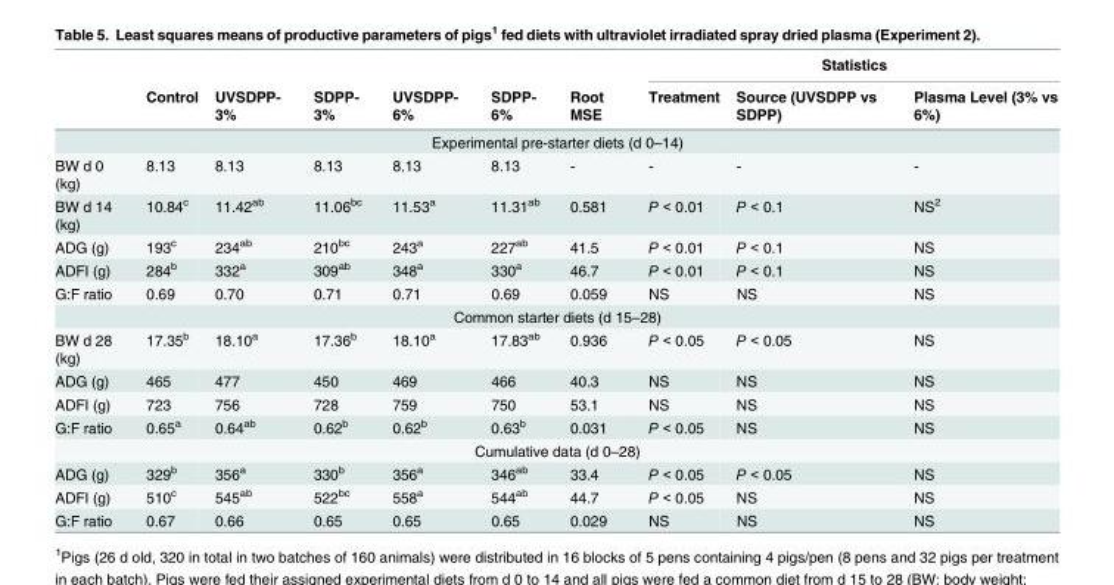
<table><thead><tr><td rowspan="2"></td><td rowspan="2">Control</td><td rowspan="2">UVSDPP- 3%</td><td rowspan="2">SDPP- 3%</td><td rowspan="2">UVSDPP- 6%</td><td rowspan="2">SDPP- 6%</td><td rowspan="2">Root MSE</td><td colspan="3">Statistics</td></tr><tr><td>Treatment</td><td>Source (UVSDPP vs SDPP)</td><td>Plasma Level (3% vs 6%)</td></tr></thead><tbody><tr><td colspan="10">Experimental pre-starter diets (d 0–14)</td></tr><tr><td>BW d 0 (kg)</td><td>8.13</td><td>8.13</td><td>8.13</td><td>8.13</td><td>8.13</td><td>-</td><td>-</td><td>-</td><td>-</td></tr><tr><td>BW d 14 (kg)</td><td>10.84<sup>c</sup></td><td>11.42<sup>ab</sup></td><td>11.06<sup>bc</sup></td><td>11.53<sup>a</sup></td><td>11.31<sup>ab</sup></td><td>0.581</td><td>P &lt; 0.01</td><td>P &lt; 0.1</td><td>NS<sup>2</sup></td></tr><tr><td>ADG (g)</td><td>193<sup>c</sup></td><td>234<sup>ab</sup></td><td>210<sup>bc</sup></td><td>243<sup>a</sup></td><td>227<sup>ab</sup></td><td>41.5</td><td>P &lt; 0.01</td><td>P &lt; 0.1</td><td>NS</td></tr><tr><td>ADFI (g)</td><td>284<sup>b</sup></td><td>332<sup>a</sup></td><td>309<sup>ab</sup></td><td>348<sup>a</sup></td><td>330<sup>a</sup></td><td>46.7</td><td>P &lt; 0.01</td><td>P &lt; 0.1</td><td>NS</td></tr><tr><td>G:F ratio</td><td>0.69</td><td>0.70</td><td>0.71</td><td>0.71</td><td>0.69</td><td>0.059</td><td>NS</td><td>NS</td><td>NS</td></tr><tr><td colspan="10">Common starter diets (d 15–28)</td></tr><tr><td>BW d 28 (kg)</td><td>17.35<sup>b</sup></td><td>18.10<sup>a</sup></td><td>17.36<sup>b</sup></td><td>18.10<sup>a</sup></td><td>17.83<sup>ab</sup></td><td>0.936</td><td>P &lt; 0.05</td><td>P &lt; 0.05</td><td>NS</td></tr><tr><td>ADG (g)</td><td>465</td><td>477</td><td>450</td><td>469</td><td>466</td><td>40.3</td><td>NS</td><td>NS</td><td>NS</td></tr><tr><td>ADFI (g)</td><td>723</td><td>756</td><td>728</td><td>759</td><td>750</td><td>53.1</td><td>NS</td><td>NS</td><td>NS</td></tr><tr><td>G:F ratio</td><td>0.65<sup>a</sup></td><td>0.64<sup>ab</sup></td><td>0.62<sup>b</sup></td><td>0.62<sup>b</sup></td><td>0.63<sup>b</sup></td><td>0.031</td><td>P &lt; 0.05</td><td>NS</td><td>NS</td></tr><tr><td colspan="10">Cumulative data (d 0–28)</td></tr><tr><td>ADG (g)</td><td>329<sup>b</sup></td><td>356<sup>a</sup></td><td>330<sup>b</sup></td><td>356<sup>a</sup></td><td>346<sup>ab</sup></td><td>33.4</td><td>P &lt; 0.05</td><td>P &lt; 0.05</td><td>NS</td></tr><tr><td>ADFI (g)</td><td>510<sup>c</sup></td><td>545<sup>ab</sup></td><td>522<sup>bc</sup></td><td>558<sup>a</sup></td><td>544<sup>ab</sup></td><td>44.7</td><td>P &lt; 0.05</td><td>NS</td><td>NS</td></tr><tr><td>G:F ratio</td><td>0.67</td><td>0.66</td><td>0.65</td><td>0.65</td><td>0.65</td><td>0.029</td><td>NS</td><td>NS</td><td>NS</td></tr></tbody></table>